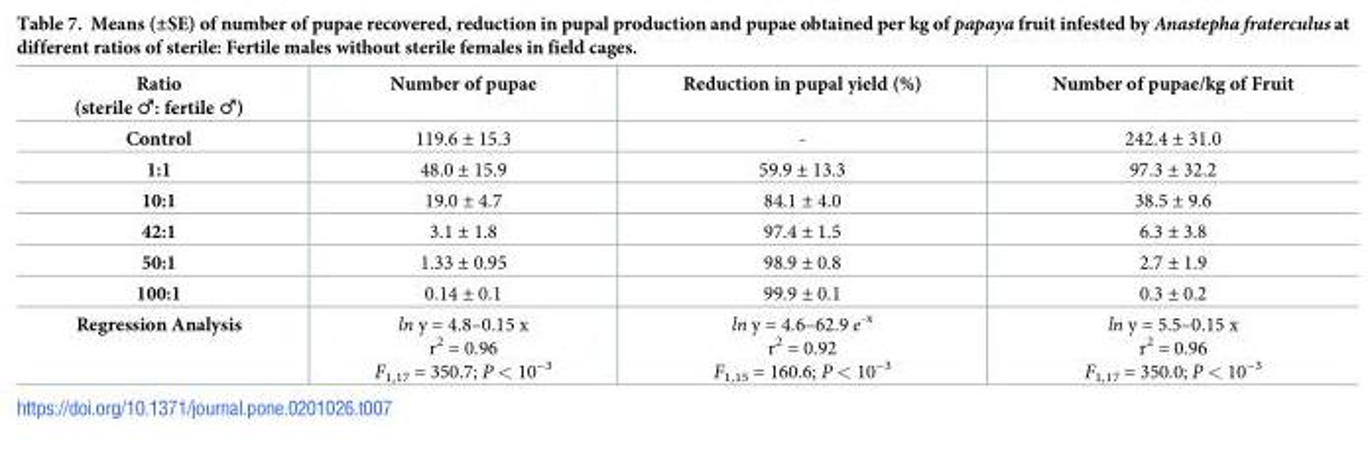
<table><thead><tr><td>Ratio (sterile ♂: fertile ♂)</td><td>Number of pupae</td><td>Reduction in pupal yield (%)</td><td>Number of pupae/kg of Fruit</td></tr></thead><tbody><tr><td>Control</td><td>119.6 ± 15.3</td><td>-</td><td>242.4 ± 31.0</td></tr><tr><td>1:1</td><td>48.0 ± 15.9</td><td>59.9 ± 13.3</td><td>97.3 ± 32.2</td></tr><tr><td>10:1</td><td>19.0 ± 4.7</td><td>84.1 ± 4.0</td><td>38.5 ± 9.6</td></tr><tr><td>42:1</td><td>3.1 ± 1.8</td><td>97.4 ± 1.5</td><td>6.3 ± 3.8</td></tr><tr><td>50:1</td><td>1.33 ± 0.95</td><td>98.9 ± 0.8</td><td>2.7 ± 1.9</td></tr><tr><td>100:1</td><td>0.14 ± 0.1</td><td>99.9 ± 0.1</td><td>0.3 ± 0.2</td></tr><tr><td>Regression Analysis</td><td>ln y = 4.8–0.15 x r<sup>2</sup> = 0.96 F<sub>1,17</sub> = 350.7; P &lt; 10<sup>−3</sup></td><td>ln y = 4.6–62.9 e<sup>-x</sup> r<sup>2</sup> = 0.92 F<sub>1,15</sub> = 160.6; P &lt; 10<sup>−3</sup></td><td>ln y = 5.5–0.15 x r<sup>2</sup> = 0.96 F<sub>1,17</sub> = 350.0; P &lt; 10<sup>−3</sup></td></tr></tbody></table>